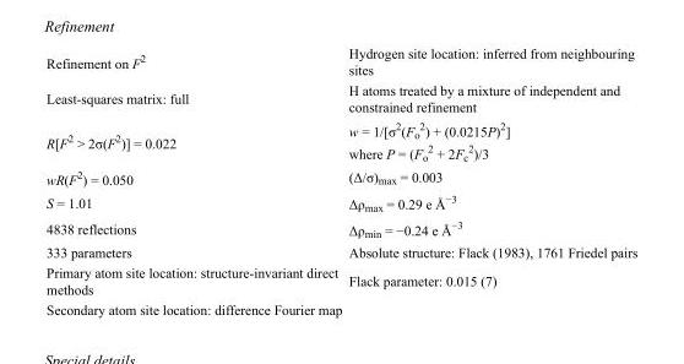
<table><tbody><tr><td>Refinement on F<sup>2</sup></td><td>Hydrogen site location: inferred from neighbouring sites</td></tr><tr><td>Least-squares matrix: full</td><td>H atoms treated by a mixture of independent and constrained refinement</td></tr><tr><td>R[F<sup>2</sup> &gt; 2σ(F<sup>2</sup>)] = 0.022</td><td>w = 1/[σ<sup>2</sup>(F<sub>o</sub> <sup>2</sup>) + (0.0215P)<sup>2</sup>] where P = (F<sub>o</sub> <sup>2</sup> + 2F<sub>c</sub> <sup>2</sup>)/3</td></tr><tr><td>wR(F<sup>2</sup>) = 0.050</td><td>(Δ/σ)<sub>max</sub> = 0.003</td></tr><tr><td>S = 1.01</td><td>Δρ<sub>max</sub> = 0.29 e Å<sup>−3</sup></td></tr><tr><td>4838 reflections</td><td>Δρ<sub>min</sub> = −0.24 e Å<sup>−3</sup></td></tr><tr><td>333 parameters</td><td>Absolute structure: Flack (1983), 1761 Friedel pairs</td></tr><tr><td>Primary atom site location: structure-invariant direct methods</td><td>Flack parameter: 0.015 (7)</td></tr><tr><td>Secondary atom site location: difference Fourier map</td><td></td></tr></tbody></table>